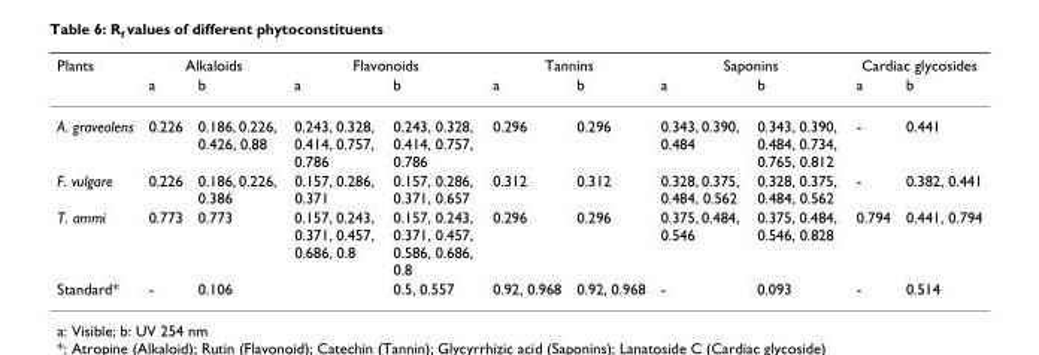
<table><thead><tr><td rowspan="2">Plants</td><td colspan="2">Alkaloids</td><td colspan="2">Flavonoids</td><td colspan="2">Tannins</td><td colspan="2">Saponins</td><td colspan="2">Cardiac glycosides</td></tr><tr><td>a</td><td>b</td><td>a</td><td>b</td><td>a</td><td>b</td><td>a</td><td>b</td><td>a</td><td>b</td></tr></thead><tbody><tr><td>A. graveolens</td><td>0.226</td><td>0.186, 0.226, 0.426, 0.88</td><td>0.243, 0.328, 0.414, 0.757, 0.786</td><td>0.243, 0.328, 0.414, 0.757, 0.786</td><td>0.296</td><td>0.296</td><td>0.343, 0.390, 0.484</td><td>0.343, 0.390, 0.484, 0.734, 0.765, 0.812</td><td>-</td><td>0.441</td></tr><tr><td>F. vulgare</td><td>0.226</td><td>0.186, 0.226, 0.386</td><td>0.157, 0.286, 0.371</td><td>0.157, 0.286, 0.371, 0.657</td><td>0.312</td><td>0.312</td><td>0.328, 0.375, 0.484, 0.562</td><td>0.328, 0.375, 0.484, 0.562</td><td>-</td><td>0.382, 0.441</td></tr><tr><td>T. ammi</td><td>0.773</td><td>0.773</td><td>0.157, 0.243, 0.371, 0.457, 0.686, 0.8</td><td>0.157, 0.243, 0.371, 0.457, 0.586, 0.686, 0.8</td><td>0.296</td><td>0.296</td><td>0.375, 0.484, 0.546</td><td>0.375, 0.484, 0.546, 0.828</td><td>0.794</td><td>0.441, 0.794</td></tr><tr><td>Standard*</td><td>-</td><td>0.106</td><td></td><td>0.5, 0.557</td><td>0.92, 0.968</td><td>0.92, 0.968</td><td>-</td><td>0.093</td><td>-</td><td>0.514</td></tr></tbody></table>